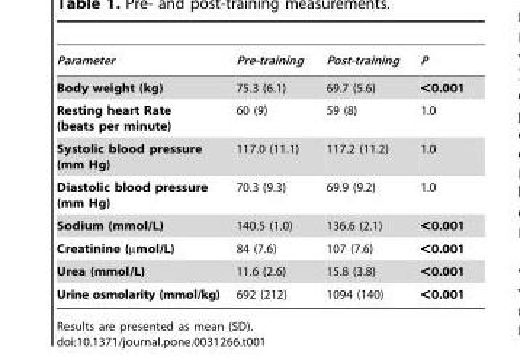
<table><thead><tr><td>Parameter</td><td>Pre-training</td><td>Post-training</td><td>P</td></tr></thead><tbody><tr><td>Body weight (kg)</td><td>75.3 (6.1)</td><td>69.7 (5.6)</td><td>&lt;0.001</td></tr><tr><td>Resting heart Rate (beats per minute)</td><td>60 (9)</td><td>59 (8)</td><td>1.0</td></tr><tr><td>Systolic blood pressure (mm Hg)</td><td>117.0 (11.1)</td><td>117.2 (11.2)</td><td>1.0</td></tr><tr><td>Diastolic blood pressure (mm Hg)</td><td>70.3 (9.3)</td><td>69.9 (9.2)</td><td>1.0</td></tr><tr><td>Sodium (mmol/L)</td><td>140.5 (1.0)</td><td>136.6 (2.1)</td><td>&lt;0.001</td></tr><tr><td>Creatinine (µmol/L)</td><td>84 (7.6)</td><td>107 (7.6)</td><td>&lt;0.001</td></tr><tr><td>Urea (mmol/L)</td><td>11.6 (2.6)</td><td>15.8 (3.8)</td><td>&lt;0.001</td></tr><tr><td>Urine osmolarity (mmol/kg)</td><td>692 (212)</td><td>1094 (140)</td><td>&lt;0.001</td></tr></tbody></table>